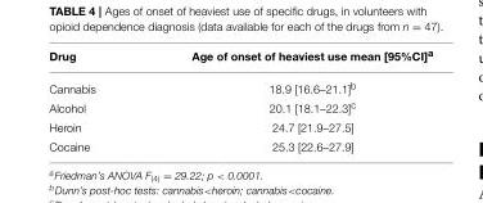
<table><thead><tr><td>Drug</td><td>Age of onset of heaviest use mean [95%CI]<sup>a</sup></td></tr></thead><tbody><tr><td>Cannabis</td><td>18.9 [16.6–21.1]<sup>b</sup></td></tr><tr><td>Alcohol</td><td>20.1 [18.1–22.3]<sup>c</sup></td></tr><tr><td>Heroin</td><td>24.7 [21.9–27.5]</td></tr><tr><td>Cocaine</td><td>25.3 [22.6–27.9]</td></tr></tbody></table>